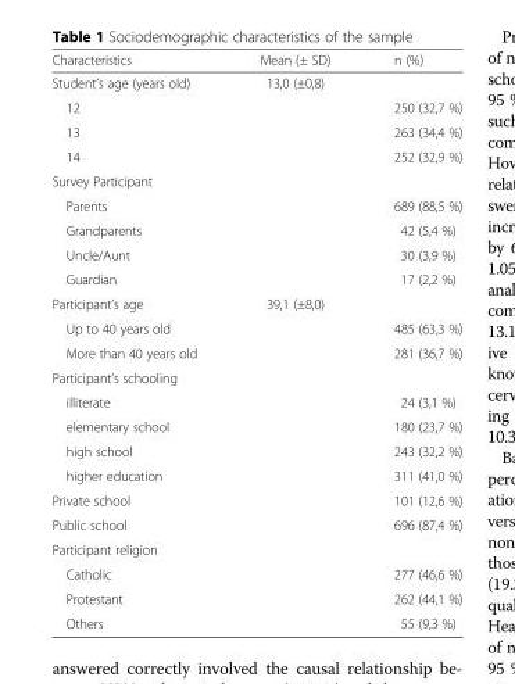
<table><thead><tr><td>Characteristics</td><td>Mean (± SD)</td><td>n (%)</td></tr></thead><tbody><tr><td>Student’s age (years old)</td><td>13,0 (±0,8)</td><td></td></tr><tr><td>12</td><td></td><td>250 (32,7 %)</td></tr><tr><td>13</td><td></td><td>263 (34,4 %)</td></tr><tr><td>14</td><td></td><td>252 (32,9 %)</td></tr><tr><td colspan="3">Survey Participant</td></tr><tr><td>Parents</td><td></td><td>689 (88,5 %)</td></tr><tr><td>Grandparents</td><td></td><td>42 (5,4 %)</td></tr><tr><td>Uncle/Aunt</td><td></td><td>30 (3,9 %)</td></tr><tr><td>Guardian</td><td></td><td>17 (2,2 %)</td></tr><tr><td>Participant’s age</td><td>39,1 (±8,0)</td><td></td></tr><tr><td>Up to 40 years old</td><td></td><td>485 (63,3 %)</td></tr><tr><td>More than 40 years old</td><td></td><td>281 (36,7 %)</td></tr><tr><td colspan="3">Participant’s schooling</td></tr><tr><td>illiterate</td><td></td><td>24 (3,1 %)</td></tr><tr><td>elementary school</td><td></td><td>180 (23,7 %)</td></tr><tr><td>high school</td><td></td><td>243 (32,2 %)</td></tr><tr><td>higher education</td><td></td><td>311 (41,0 %)</td></tr><tr><td>Private school</td><td></td><td>101 (12,6 %)</td></tr><tr><td>Public school</td><td></td><td>696 (87,4 %)</td></tr><tr><td colspan="3">Participant religion</td></tr><tr><td>Catholic</td><td></td><td>277 (46,6 %)</td></tr><tr><td>Protestant</td><td></td><td>262 (44,1 %)</td></tr><tr><td>Others</td><td></td><td>55 (9,3 %)</td></tr></tbody></table>